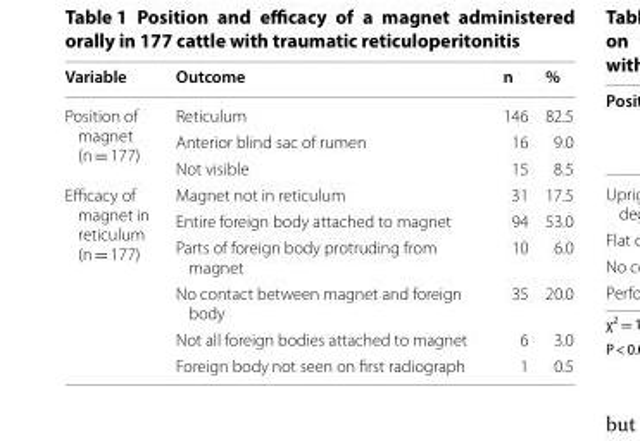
<table><thead><tr><td>Variable</td><td>Outcome</td><td>n</td><td>%</td></tr></thead><tbody><tr><td rowspan="3">Position of magnet (n = 177)</td><td>Reticulum</td><td>146</td><td>82.5</td></tr><tr><td>Anterior blind sac of rumen</td><td>16</td><td>9.0</td></tr><tr><td>Not visible</td><td>15</td><td>8.5</td></tr><tr><td rowspan="6">Efficacy of magnet in reticulum (n = 177)</td><td>Magnet not in reticulum</td><td>31</td><td>17.5</td></tr><tr><td>Entire foreign body attached to magnet</td><td>94</td><td>53.0</td></tr><tr><td>Parts of foreign body protruding from magnet</td><td>10</td><td>6.0</td></tr><tr><td>No contact between magnet and foreign body</td><td>35</td><td>20.0</td></tr><tr><td>Not all foreign bodies attached to magnet</td><td>6</td><td>3.0</td></tr><tr><td>Foreign body not seen on first radiograph</td><td>1</td><td>0.5</td></tr></tbody></table>